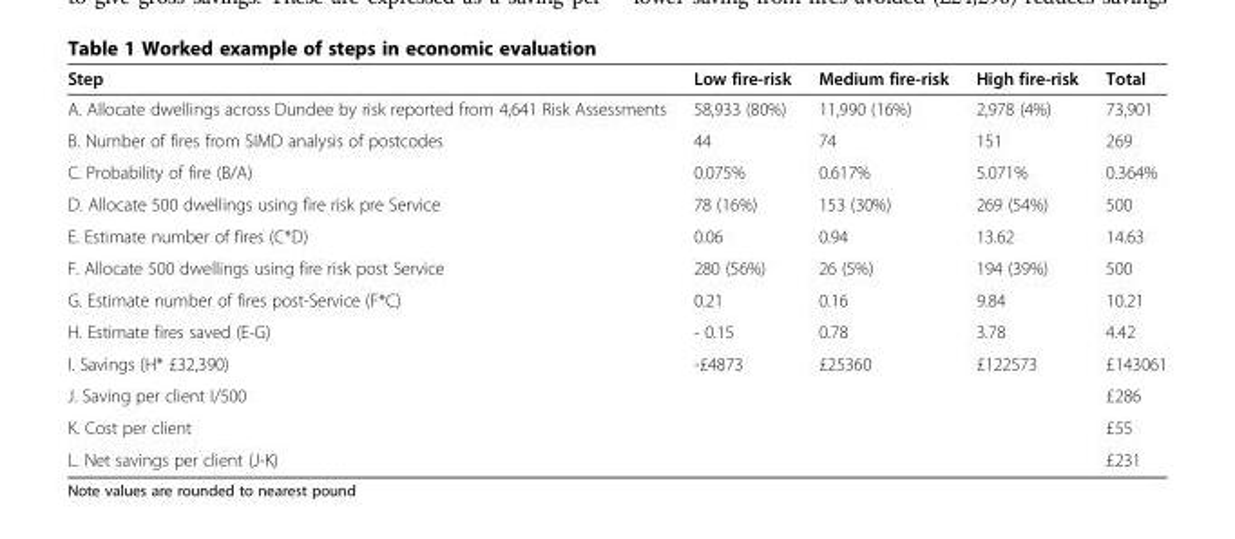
<table><thead><tr><td>Step</td><td>Low fire-risk</td><td>Medium fire-risk</td><td>High fire-risk</td><td>Total</td></tr></thead><tbody><tr><td>A. Allocate dwellings across Dundee by risk reported from 4,641 Risk Assessments</td><td>58,933 (80%)</td><td>11,990 (16%)</td><td>2,978 (4%)</td><td>73,901</td></tr><tr><td>B. Number of fires from SIMD analysis of postcodes</td><td>44</td><td>74</td><td>151</td><td>269</td></tr><tr><td>C. Probability of fire (B/A)</td><td>0.075%</td><td>0.617%</td><td>5.071%</td><td>0.364%</td></tr><tr><td>D. Allocate 500 dwellings using fire risk pre Service</td><td>78 (16%)</td><td>153 (30%)</td><td>269 (54%)</td><td>500</td></tr><tr><td>E. Estimate number of fires (C*D)</td><td>0.06</td><td>0.94</td><td>13.62</td><td>14.63</td></tr><tr><td>F. Allocate 500 dwellings using fire risk post Service</td><td>280 (56%)</td><td>26 (5%)</td><td>194 (39%)</td><td>500</td></tr><tr><td>G. Estimate number of fires post-Service (F*C)</td><td>0.21</td><td>0.16</td><td>9.84</td><td>10.21</td></tr><tr><td>H. Estimate fires saved (E-G)</td><td>- 0.15</td><td>0.78</td><td>3.78</td><td>4.42</td></tr><tr><td>I. Savings (H* £32,390)</td><td>-£4873</td><td>£25360</td><td>£122573</td><td>£143061</td></tr><tr><td>J. Saving per client I/500</td><td></td><td></td><td></td><td>£286</td></tr><tr><td>K. Cost per client</td><td></td><td></td><td></td><td>£55</td></tr><tr><td>L. Net savings per client (J-K)</td><td></td><td></td><td></td><td>£231</td></tr></tbody></table>